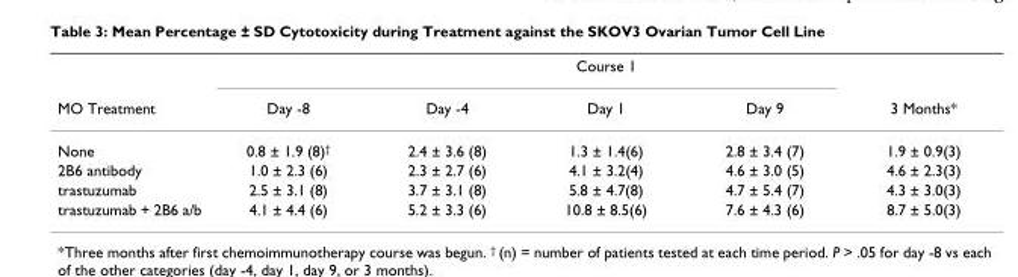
<table><thead><tr><td rowspan="2">MO Treatment</td><td colspan="5">Course 1</td></tr><tr><td>Day -8</td><td>Day -4</td><td>Day 1</td><td>Day 9</td><td>3 Months*</td></tr></thead><tbody><tr><td>None</td><td>0.8 ± 1.9 (8)<sup>†</sup></td><td>2.4 ± 3.6 (8)</td><td>1.3 ± 1.4(6)</td><td>2.8 ± 3.4 (7)</td><td>1.9 ± 0.9(3)</td></tr><tr><td>2B6 antibody</td><td>1.0 ± 2.3 (6)</td><td>2.3 ± 2.7 (6)</td><td>4.1 ± 3.2(4)</td><td>4.6 ± 3.0 (5)</td><td>4.6 ± 2.3(3)</td></tr><tr><td>trastuzumab</td><td>2.5 ± 3.1 (8)</td><td>3.7 ± 3.1 (8)</td><td>5.8 ± 4.7(8)</td><td>4.7 ± 5.4 (7)</td><td>4.3 ± 3.0(3)</td></tr><tr><td>trastuzumab + 2B6 a/b</td><td>4.1 ± 4.4 (6)</td><td>5.2 ± 3.3 (6)</td><td>10.8 ± 8.5(6)</td><td>7.6 ± 4.3 (6)</td><td>8.7 ± 5.0(3)</td></tr></tbody></table>